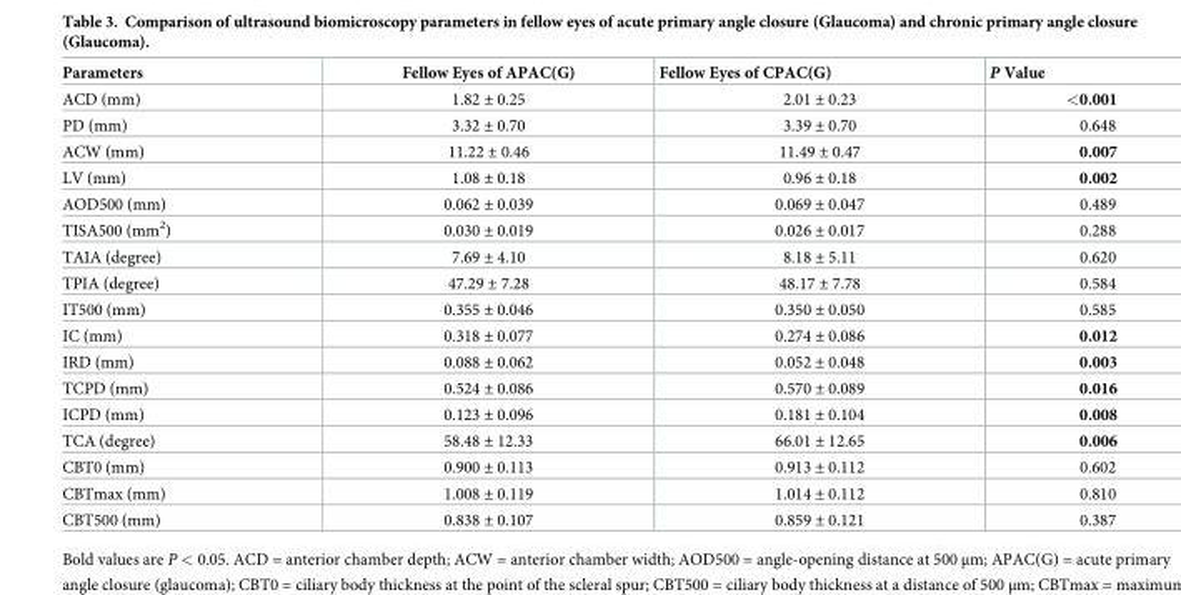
<table><thead><tr><td>Parameters</td><td>Fellow Eyes of APAC(G)</td><td>Fellow Eyes of CPAC(G)</td><td>P Value</td></tr></thead><tbody><tr><td>ACD (mm)</td><td>1.82 ± 0.25</td><td>2.01 ± 0.23</td><td>&lt;0.001</td></tr><tr><td>PD (mm)</td><td>3.32 ± 0.70</td><td>3.39 ± 0.70</td><td>0.648</td></tr><tr><td>ACW (mm)</td><td>11.22 ± 0.46</td><td>11.49 ± 0.47</td><td>0.007</td></tr><tr><td>LV (mm)</td><td>1.08 ± 0.18</td><td>0.96 ± 0.18</td><td>0.002</td></tr><tr><td>AOD500 (mm)</td><td>0.062 ± 0.039</td><td>0.069 ± 0.047</td><td>0.489</td></tr><tr><td>TISA500 (mm<sup>2</sup>)</td><td>0.030 ± 0.019</td><td>0.026 ± 0.017</td><td>0.288</td></tr><tr><td>TAIA (degree)</td><td>7.69 ± 4.10</td><td>8.18 ± 5.11</td><td>0.620</td></tr><tr><td>TPIA (degree)</td><td>47.29 ± 7.28</td><td>48.17 ± 7.78</td><td>0.584</td></tr><tr><td>IT500 (mm)</td><td>0.355 ± 0.046</td><td>0.350 ± 0.050</td><td>0.585</td></tr><tr><td>IC (mm)</td><td>0.318 ± 0.077</td><td>0.274 ± 0.086</td><td>0.012</td></tr><tr><td>IRD (mm)</td><td>0.088 ± 0.062</td><td>0.052 ± 0.048</td><td>0.003</td></tr><tr><td>TCPD (mm)</td><td>0.524 ± 0.086</td><td>0.570 ± 0.089</td><td>0.016</td></tr><tr><td>ICPD (mm)</td><td>0.123 ± 0.096</td><td>0.181 ± 0.104</td><td>0.008</td></tr><tr><td>TCA (degree)</td><td>58.48 ± 12.33</td><td>66.01 ± 12.65</td><td>0.006</td></tr><tr><td>CBT0 (mm)</td><td>0.900 ± 0.113</td><td>0.913 ± 0.112</td><td>0.602</td></tr><tr><td>CBTmax (mm)</td><td>1.008 ± 0.119</td><td>1.014 ± 0.112</td><td>0.810</td></tr><tr><td>CBT500 (mm)</td><td>0.838 ± 0.107</td><td>0.859 ± 0.121</td><td>0.387</td></tr></tbody></table>